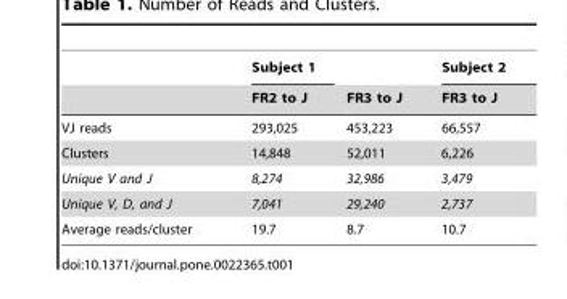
<table><thead><tr><td rowspan="2"></td><td rowspan="2">Subject 1 FR2 to J</td><td rowspan="2">FR3 to J</td><td rowspan="2">Subject 2 FR3 to J</td></tr><tr></tr></thead><tbody><tr><td>VJ reads</td><td>293,025</td><td>453,223</td><td>66,557</td></tr><tr><td>Clusters</td><td>14,848</td><td>52,011</td><td>6,226</td></tr><tr><td>Unique V and J</td><td>8,274</td><td>32,986</td><td>3,479</td></tr><tr><td>Unique V, D, and J</td><td>7,041</td><td>29,240</td><td>2,737</td></tr><tr><td>Average reads/cluster</td><td>19.7</td><td>8.7</td><td>10.7</td></tr></tbody></table>